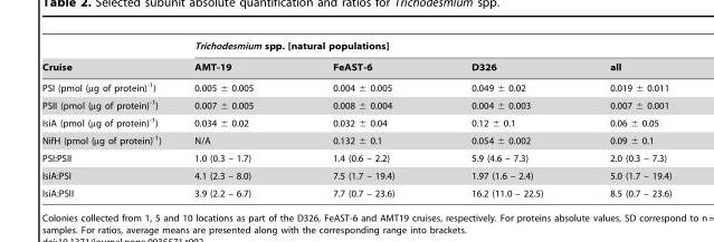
<table><thead><tr><td rowspan="2">Cruise</td><td colspan="4">Trichodesmium spp. [natural populations]</td></tr><tr><td>AMT-19</td><td>FeAST-6</td><td>D326</td><td>all</td></tr></thead><tbody><tr><td>PSI (pmol (µg of protein)<sup>-1</sup>)</td><td>0.005 ± 0.005</td><td>0.004 ± 0.005</td><td>0.049 ± 0.02</td><td>0.019 ± 0.011</td></tr><tr><td>PSII (pmol (µg of protein)<sup>-1</sup>)</td><td>0.007 ± 0.005</td><td>0.008 ± 0.004</td><td>0.004 ± 0.003</td><td>0.007 ± 0.001</td></tr><tr><td>IsiA (pmol (µg of protein)<sup>-1</sup>)</td><td>0.034 ± 0.02</td><td>0.032 ± 0.04</td><td>0.12 ± 0.1</td><td>0.06 ± 0.05</td></tr><tr><td>NifH (pmol (µg of protein)<sup>-1</sup>)</td><td>N/A</td><td>0.132 ± 0.1</td><td>0.054 ± 0.002</td><td>0.09 ± 0.1</td></tr><tr><td>PSI:PSII</td><td>1.0 (0.3 – 1.7)</td><td>1.4 (0.6 – 2.2)</td><td>5.9 (4.6 – 7.3)</td><td>2.0 (0.3 – 7.3)</td></tr><tr><td>IsiA:PSI</td><td>4.1 (2.3 – 8.0)</td><td>7.5 (1.7 – 19.4)</td><td>1.97 (1.6 – 2.4)</td><td>5.0 (1.7 – 19.4)</td></tr><tr><td>IsiA:PSII</td><td>3.9 (2.2 – 6.7)</td><td>7.7 (0.7 – 23.6)</td><td>16.2 (11.0 – 22.5)</td><td>8.5 (0.7 – 23.6)</td></tr></tbody></table>